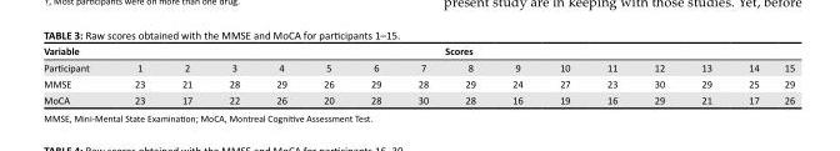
<table><thead><tr><td rowspan="2">Variable Participant</td><td colspan="15">Scores</td></tr><tr><td>1</td><td>2</td><td>3</td><td>4</td><td>5</td><td>6</td><td>7</td><td>8</td><td>9</td><td>10</td><td>11</td><td>12</td><td>13</td><td>14</td><td>15</td></tr></thead><tbody><tr><td>MMSE</td><td>23</td><td>21</td><td>28</td><td>29</td><td>26</td><td>29</td><td>28</td><td>29</td><td>24</td><td>27</td><td>23</td><td>30</td><td>29</td><td>25</td><td>29</td></tr><tr><td>MoCA</td><td>23</td><td>17</td><td>22</td><td>26</td><td>20</td><td>28</td><td>30</td><td>28</td><td>16</td><td>19</td><td>16</td><td>29</td><td>21</td><td>17</td><td>26</td></tr></tbody></table>